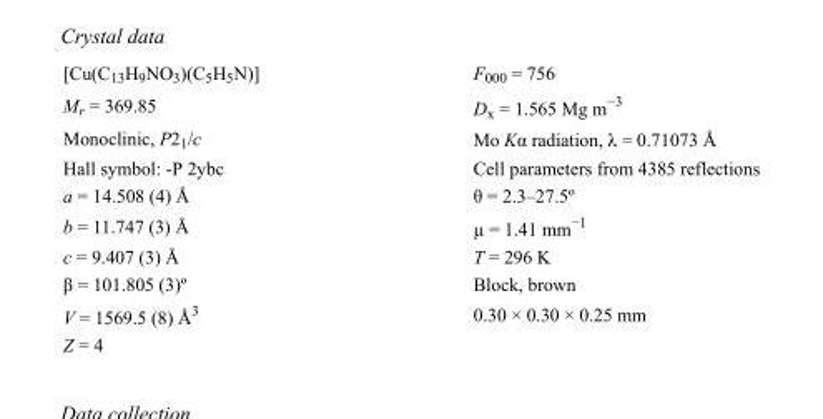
<table><tbody><tr><td>[Cu(C<sub>13</sub>H<sub>9</sub>NO<sub>3</sub>)(C<sub>5</sub>H<sub>5</sub>N)]</td><td>F000 = 756</td></tr><tr><td>M<sub>r</sub> = 369.85</td><td>D<sub>x</sub> = 1.565 Mg m<sup>−3</sup></td></tr><tr><td>Monoclinic, P2<sub>1</sub>/c</td><td>Mo Kα radiation, λ = 0.71073 Å</td></tr><tr><td>Hall symbol: -P 2ybc</td><td>Cell parameters from 4385 reflections</td></tr><tr><td>a = 14.508 (4) Å</td><td>θ = 2.3–27.5º</td></tr><tr><td>b = 11.747 (3) Å</td><td>µ = 1.41 mm<sup>−1</sup></td></tr><tr><td>c = 9.407 (3) Å</td><td>T = 296 K</td></tr><tr><td>β = 101.805 (3)º</td><td>Block, brown</td></tr><tr><td>V = 1569.5 (8) Å<sup>3</sup></td><td>0.30 × 0.30 × 0.25 mm</td></tr><tr><td>Z = 4</td><td></td></tr></tbody></table>